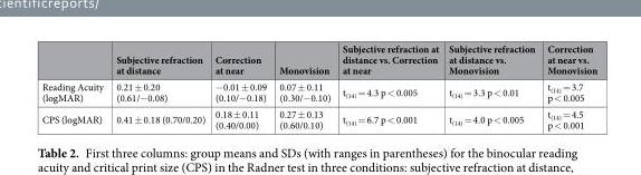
<table><thead><tr><td></td><td>Subjective refraction at distance</td><td>Correction at near</td><td>Monovision</td><td>Subjective refraction at distance vs. Correction at near</td><td>Subjective refraction at distance vs. Monovision</td><td>Correction at near vs. Monovision</td></tr></thead><tbody><tr><td>Reading Acuity (logMAR)</td><td>0.21 ± 0.20 (0.61/−0.08)</td><td>−0.01 ± 0.09 (0.10/−0.18)</td><td>0.07 ± 0.11 (0.30/−0.10)</td><td>t<sub>(14)</sub> = 4.3 p &lt; 0.005</td><td>t<sub>(14)</sub> = 3.3 p &lt; 0.01</td><td>t<sub>(14)</sub> = 3.7 p &lt; 0.005</td></tr><tr><td>CPS (logMAR)</td><td>0.41 ± 0.18 (0.70/0.20)</td><td>0.18 ± 0.11 (0.40/0.00)</td><td>0.27 ± 0.13 (0.60/0.10)</td><td>t<sub>(14)</sub> = 6.7 p &lt; 0.001</td><td>t<sub>(14)</sub> = 4.0 p &lt; 0.005</td><td>t<sub>(14)</sub> = 4.5 p &lt; 0.001</td></tr></tbody></table>